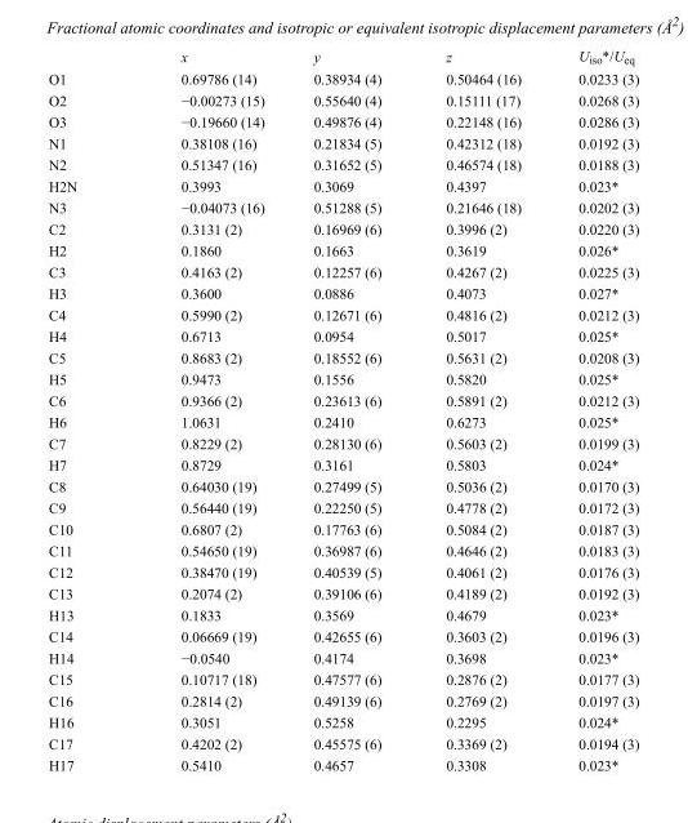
<table><thead><tr><td></td><td>x</td><td>y</td><td>z</td><td>U<sub>iso</sub>*/U<sub>eq</sub></td></tr></thead><tbody><tr><td>O1</td><td>0.69786 (14)</td><td>0.38934 (4)</td><td>0.50464 (16)</td><td>0.0233 (3)</td></tr><tr><td>O2</td><td>−0.00273 (15)</td><td>0.55640 (4)</td><td>0.15111 (17)</td><td>0.0268 (3)</td></tr><tr><td>O3</td><td>−0.19660 (14)</td><td>0.49876 (4)</td><td>0.22148 (16)</td><td>0.0286 (3)</td></tr><tr><td>N1</td><td>0.38108 (16)</td><td>0.21834 (5)</td><td>0.42312 (18)</td><td>0.0192 (3)</td></tr><tr><td>N2</td><td>0.51347 (16)</td><td>0.31652 (5)</td><td>0.46574 (18)</td><td>0.0188 (3)</td></tr><tr><td>H2N</td><td>0.3993</td><td>0.3069</td><td>0.4397</td><td>0.023*</td></tr><tr><td>N3</td><td>−0.04073 (16)</td><td>0.51288 (5)</td><td>0.21646 (18)</td><td>0.0202 (3)</td></tr><tr><td>C2</td><td>0.3131 (2)</td><td>0.16969 (6)</td><td>0.3996 (2)</td><td>0.0220 (3)</td></tr><tr><td>H2</td><td>0.1860</td><td>0.1663</td><td>0.3619</td><td>0.026*</td></tr><tr><td>C3</td><td>0.4163 (2)</td><td>0.12257 (6)</td><td>0.4267 (2)</td><td>0.0225 (3)</td></tr><tr><td>H3</td><td>0.3600</td><td>0.0886</td><td>0.4073</td><td>0.027*</td></tr><tr><td>C4</td><td>0.5990 (2)</td><td>0.12671 (6)</td><td>0.4816 (2)</td><td>0.0212 (3)</td></tr><tr><td>H4</td><td>0.6713</td><td>0.0954</td><td>0.5017</td><td>0.025*</td></tr><tr><td>C5</td><td>0.8683 (2)</td><td>0.18552 (6)</td><td>0.5631 (2)</td><td>0.0208 (3)</td></tr><tr><td>H5</td><td>0.9473</td><td>0.1556</td><td>0.5820</td><td>0.025*</td></tr><tr><td>C6</td><td>0.9366 (2)</td><td>0.23613 (6)</td><td>0.5891 (2)</td><td>0.0212 (3)</td></tr><tr><td>H6</td><td>1.0631</td><td>0.2410</td><td>0.6273</td><td>0.025*</td></tr><tr><td>C7</td><td>0.8229 (2)</td><td>0.28130 (6)</td><td>0.5603 (2)</td><td>0.0199 (3)</td></tr><tr><td>H7</td><td>0.8729</td><td>0.3161</td><td>0.5803</td><td>0.024*</td></tr><tr><td>C8</td><td>0.64030 (19)</td><td>0.27499 (5)</td><td>0.5036 (2)</td><td>0.0170 (3)</td></tr><tr><td>C9</td><td>0.56440 (19)</td><td>0.22250 (5)</td><td>0.4778 (2)</td><td>0.0172 (3)</td></tr><tr><td>C10</td><td>0.6807 (2)</td><td>0.17763 (6)</td><td>0.5084 (2)</td><td>0.0187 (3)</td></tr><tr><td>C11</td><td>0.54650 (19)</td><td>0.36987 (6)</td><td>0.4646 (2)</td><td>0.0183 (3)</td></tr><tr><td>C12</td><td>0.38470 (19)</td><td>0.40539 (5)</td><td>0.4061 (2)</td><td>0.0176 (3)</td></tr><tr><td>C13</td><td>0.2074 (2)</td><td>0.39106 (6)</td><td>0.4189 (2)</td><td>0.0192 (3)</td></tr><tr><td>H13</td><td>0.1833</td><td>0.3569</td><td>0.4679</td><td>0.023*</td></tr><tr><td>C14</td><td>0.06669 (19)</td><td>0.42655 (6)</td><td>0.3603 (2)</td><td>0.0196 (3)</td></tr><tr><td>H14</td><td>−0.0540</td><td>0.4174</td><td>0.3698</td><td>0.023*</td></tr><tr><td>C15</td><td>0.10717 (18)</td><td>0.47577 (6)</td><td>0.2876 (2)</td><td>0.0177 (3)</td></tr><tr><td>C16</td><td>0.2814 (2)</td><td>0.49139 (6)</td><td>0.2769 (2)</td><td>0.0197 (3)</td></tr><tr><td>H16</td><td>0.3051</td><td>0.5258</td><td>0.2295</td><td>0.024*</td></tr><tr><td>C17</td><td>0.4202 (2)</td><td>0.45575 (6)</td><td>0.3369 (2)</td><td>0.0194 (3)</td></tr><tr><td>H17</td><td>0.5410</td><td>0.4657</td><td>0.3308</td><td>0.023*</td></tr></tbody></table>